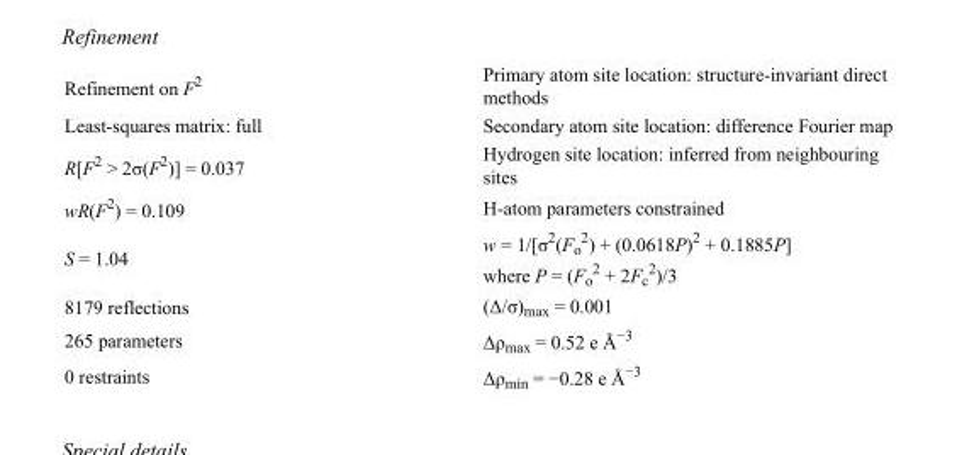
<table><tbody><tr><td>Refinement on F<sup>2</sup></td><td>Primary atom site location: structure-invariant direct methods</td></tr><tr><td>Least-squares matrix: full</td><td>Secondary atom site location: difference Fourier map</td></tr><tr><td>R[F<sup>2</sup> &gt; 2σ(F<sup>2</sup>)] = 0.037</td><td>Hydrogen site location: inferred from neighbouring sites</td></tr><tr><td>wR(F<sup>2</sup>) = 0.109</td><td>H-atom parameters constrained</td></tr><tr><td>S = 1.04</td><td>w = 1/[σ<sup>2</sup>(F<sub>o</sub> <sup>2</sup>) + (0.0618P)<sup>2</sup> + 0.1885P] where P = (F<sub>o</sub> <sup>2</sup> + 2F<sub>c</sub> <sup>2</sup>)/3</td></tr><tr><td>8179 reflections</td><td>(Δ/σ)<sub>max</sub> = 0.001</td></tr><tr><td>265 parameters</td><td>Δρ<sub>max</sub> = 0.52 e Å<sup>−3</sup></td></tr><tr><td>0 restraints</td><td>Δρ<sub>min</sub> = −0.28 e Å<sup>−3</sup></td></tr></tbody></table>